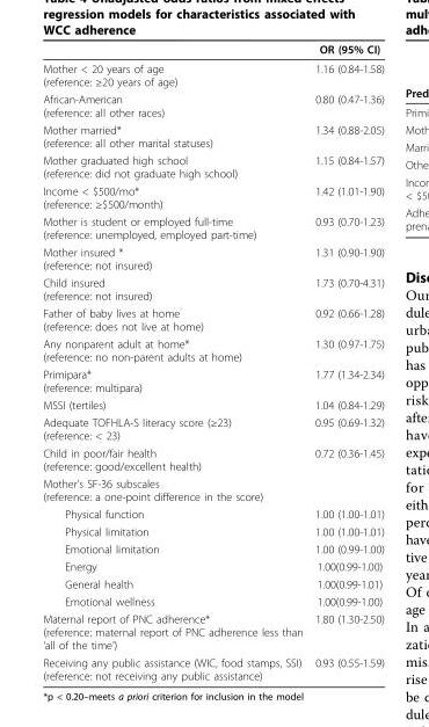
<table><thead><tr><td></td><td>OR (95% CI)</td></tr></thead><tbody><tr><td>Mother &lt; 20 years of age (reference: ≥20 years of age)</td><td>1.16 (0.84-1.58)</td></tr><tr><td>African-American (reference: all other races)</td><td>0.80 (0.47-1.36)</td></tr><tr><td>Mother married* (reference: all other marital statuses)</td><td>1.34 (0.88-2.05)</td></tr><tr><td>Mother graduated high school (reference: did not graduate high school)</td><td>1.15 (0.84-1.57)</td></tr><tr><td>Income &lt; $500/mo* (reference: ≥$500/month)</td><td>1.42 (1.01-1.90)</td></tr><tr><td>Mother is student or employed full-time (reference: unemployed, employed part-time)</td><td>0.93 (0.70-1.23)</td></tr><tr><td>Mother insured * (reference: not insured)</td><td>1.31 (0.90-1.90)</td></tr><tr><td>Child insured (reference: not insured)</td><td>1.73 (0.70-4.31)</td></tr><tr><td>Father of baby lives at home (reference: does not live at home)</td><td>0.92 (0.66-1.28)</td></tr><tr><td>Any nonparent adult at home* (reference: no non-parent adults at home)</td><td>1.30 (0.97-1.75)</td></tr><tr><td>Primipara* (reference: multipara)</td><td>1.77 (1.34-2.34)</td></tr><tr><td>MSSI (tertiles)</td><td>1.04 (0.84-1.29)</td></tr><tr><td>Adequate TOFHLA-S literacy score (≥23) (reference: &lt; 23)</td><td>0.95 (0.69-1.32)</td></tr><tr><td>Child in poor/fair health (reference: good/excellent health)</td><td>0.72 (0.36-1.45)</td></tr><tr><td colspan="2">Mother’s SF-36 subscales (reference: a one-point difference in the score)</td></tr><tr><td>Physical function</td><td>1.00 (1.00-1.01)</td></tr><tr><td>Physical limitation</td><td>1.00 (1.00-1.01)</td></tr><tr><td>Emotional limitation</td><td>1.00 (0.99-1.00)</td></tr><tr><td>Energy</td><td>1.00(0.99-1.00)</td></tr><tr><td>General health</td><td>1.00(0.99-1.01)</td></tr><tr><td>Emotional wellness</td><td>1.00(0.99-1.00)</td></tr><tr><td>Maternal report of PNC adherence* (reference: maternal report of PNC adherence less than ‘all of the time’)</td><td>1.80 (1.30-2.50)</td></tr><tr><td>Receiving any public assistance (WIC, food stamps, SSI) (reference: not receiving any public assistance)</td><td>0.93 (0.55-1.59)</td></tr></tbody></table>